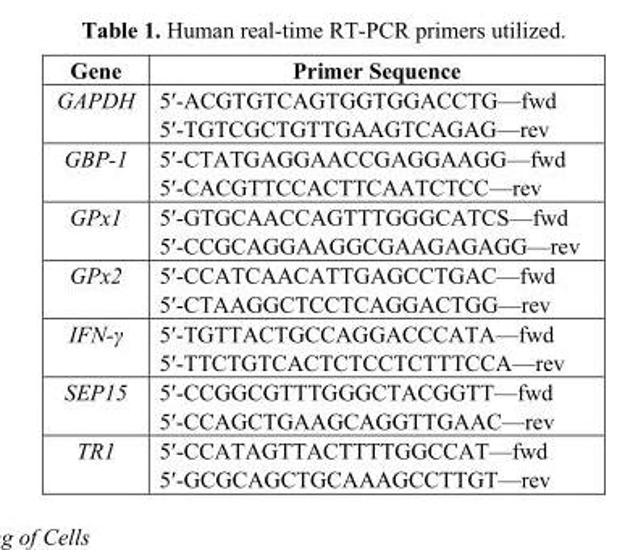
<table><thead><tr><td>Gene</td><td>Primer Sequence</td></tr></thead><tbody><tr><td rowspan="2">GAPDH</td><td>5′-ACGTGTCAGTGGTGGACCTG—fwd</td></tr><tr><td>5′-TGTCGCTGTTGAAGTCAGAG—rev</td></tr><tr><td rowspan="2">GBP-1</td><td>5′-CTATGAGGAACCGAGGAAGG—fwd</td></tr><tr><td>5′-CACGTTCCACTTCAATCTCC—rev</td></tr><tr><td rowspan="2">GPx1</td><td>5′-GTGCAACCAGTTTGGGCATCS—fwd</td></tr><tr><td>5′-CCGCAGGAAGGCGAAGAGAGG—rev</td></tr><tr><td rowspan="2">GPx2</td><td>5′-CCATCAACATTGAGCCTGAC—fwd</td></tr><tr><td>5′-CTAAGGCTCCTCAGGACTGG—rev</td></tr><tr><td rowspan="2">IFN-γ</td><td>5′-TGTTACTGCCAGGACCCATA—fwd</td></tr><tr><td>5′-TTCTGTCACTCTCCTCTTTCCA—rev</td></tr><tr><td rowspan="2">SEP15</td><td>5′-CCGGCGTTTGGGCTACGGTT—fwd</td></tr><tr><td>5′-CCAGCTGAAGCAGGTTGAAC—rev</td></tr><tr><td rowspan="2">TR1</td><td>5′-CCATAGTTACTTTTGGCCAT—fwd</td></tr><tr><td>5′-GCGCAGCTGCAAAGCCTTGT—rev</td></tr></tbody></table>